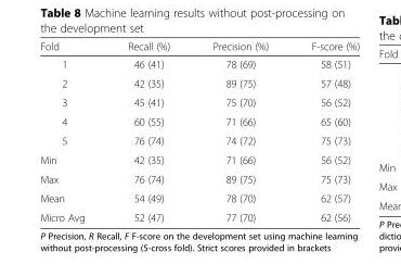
<table><thead><tr><td>Fold</td><td>Recall (%)</td><td>Precision (%)</td><td>F-score (%)</td></tr></thead><tbody><tr><td>1</td><td>46 (41)</td><td>78 (69)</td><td>58 (51)</td></tr><tr><td>2</td><td>42 (35)</td><td>89 (75)</td><td>57 (48)</td></tr><tr><td>3</td><td>45 (41)</td><td>75 (70)</td><td>56 (52)</td></tr><tr><td>4</td><td>60 (55)</td><td>71 (66)</td><td>65 (60)</td></tr><tr><td>5</td><td>76 (74)</td><td>74 (72)</td><td>75 (73)</td></tr><tr><td>Min</td><td>42 (35)</td><td>71 (66)</td><td>56 (52)</td></tr><tr><td>Max</td><td>76 (74)</td><td>89 (75)</td><td>75 (73)</td></tr><tr><td>Mean</td><td>54 (49)</td><td>78 (70)</td><td>62 (57)</td></tr><tr><td>Micro Avg</td><td>52 (47)</td><td>77 (70)</td><td>62 (56)</td></tr></tbody></table>